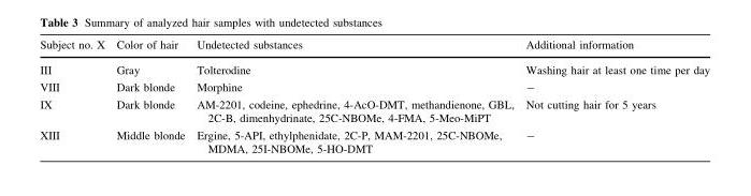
<table><thead><tr><td>Subject no. X</td><td>Color of hair</td><td>Undetected substances</td><td>Additional information</td></tr></thead><tbody><tr><td>III</td><td>Gray</td><td>Tolterodine</td><td>Washing hair at least one time per day</td></tr><tr><td>VIII</td><td>Dark blonde</td><td>Morphine</td><td>-</td></tr><tr><td>IX</td><td>Dark blonde</td><td>AM-2201, codeine, ephedrine, 4-AcO-DMT, methandienone, GBL, 2C-B, dimenhydrinate, 25C-NBOMe, 4-FMA, 5-Meo-MiPT</td><td>Not cutting hair for 5 years</td></tr><tr><td>XIII</td><td>Middle blonde</td><td>Ergine, 5-API, ethylphenidate, 2C-P, MAM-2201, 25C-NBOMe, MDMA, 25I-NBOMe, 5-HO-DMT</td><td>-</td></tr></tbody></table>